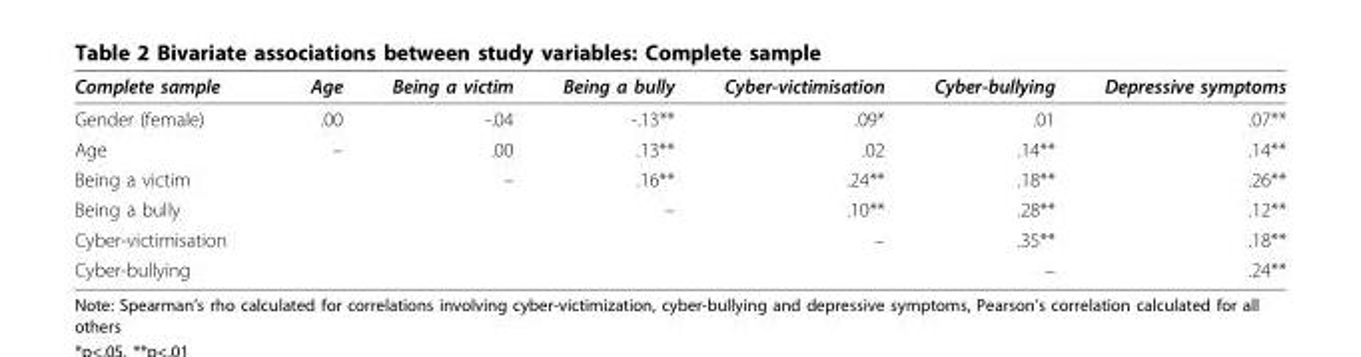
<table><thead><tr><td>Complete sample</td><td>Age</td><td>Being a victim</td><td>Being a bully</td><td>Cyber-victimisation</td><td>Cyber-bullying</td><td>Depressive symptoms</td></tr></thead><tbody><tr><td>Gender (female)</td><td>.00</td><td>-.04</td><td>-.13**</td><td>.09*</td><td>.01</td><td>.07**</td></tr><tr><td>Age</td><td>–</td><td>.00</td><td>.13**</td><td>.02</td><td>.14**</td><td>.14**</td></tr><tr><td>Being a victim</td><td></td><td>–</td><td>.16**</td><td>.24**</td><td>.18**</td><td>.26**</td></tr><tr><td>Being a bully</td><td></td><td></td><td>–</td><td>.10**</td><td>.28**</td><td>.12**</td></tr><tr><td>Cyber-victimisation</td><td></td><td></td><td></td><td>–</td><td>.35**</td><td>.18**</td></tr><tr><td>Cyber-bullying</td><td></td><td></td><td></td><td></td><td>–</td><td>.24**</td></tr></tbody></table>